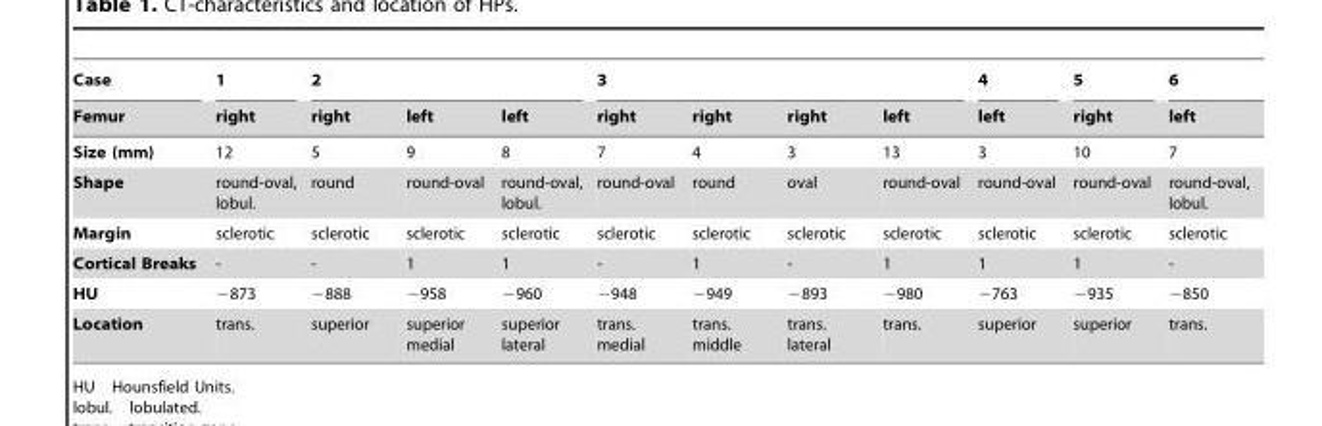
<table><thead><tr><td rowspan="2">Case Femur</td><td rowspan="2">1 right</td><td colspan="3">2</td><td colspan="4">3</td><td rowspan="2">4 left</td><td rowspan="2">5 right</td><td rowspan="2">6 left</td></tr><tr><td>right</td><td>left</td><td>left</td><td>right</td><td>right</td><td>right</td><td>left</td></tr></thead><tbody><tr><td>Size (mm)</td><td>12</td><td>5</td><td>9</td><td>8</td><td>7</td><td>4</td><td>3</td><td>13</td><td>3</td><td>10</td><td>7</td></tr><tr><td>Shape</td><td>round-oval, lobul.</td><td>round</td><td>round-oval</td><td>round-oval, lobul.</td><td>round-oval</td><td>round</td><td>oval</td><td>round-oval</td><td>round-oval</td><td>round-oval</td><td>round-oval, lobul.</td></tr><tr><td>Margin</td><td>sclerotic</td><td>sclerotic</td><td>sclerotic</td><td>sclerotic</td><td>sclerotic</td><td>sclerotic</td><td>sclerotic</td><td>sclerotic</td><td>sclerotic</td><td>sclerotic</td><td>sclerotic</td></tr><tr><td>Cortical Breaks</td><td>-</td><td>-</td><td>1</td><td>1</td><td>-</td><td>1</td><td>-</td><td>1</td><td>1</td><td>1</td><td>-</td></tr><tr><td>HU</td><td>−873</td><td>−888</td><td>−958</td><td>−960</td><td>−948</td><td>−949</td><td>−893</td><td>−980</td><td>−763</td><td>−935</td><td>−850</td></tr><tr><td>Location</td><td>trans.</td><td>superior</td><td>superior medial</td><td>superior lateral</td><td>trans. medial</td><td>trans. middle</td><td>trans. lateral</td><td>trans.</td><td>superior</td><td>superior</td><td>trans.</td></tr></tbody></table>